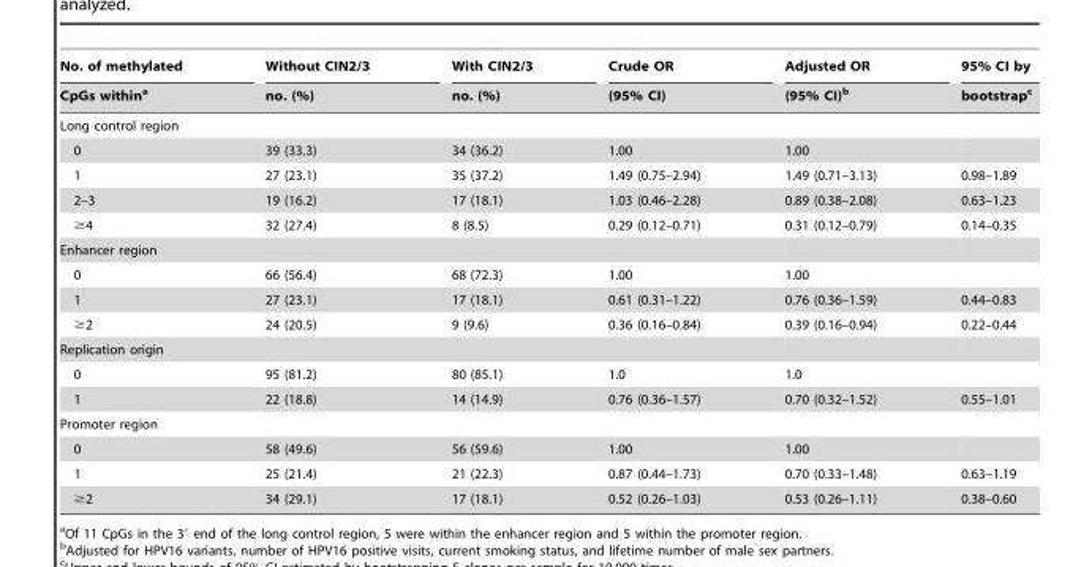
<table><thead><tr><td rowspan="2">No. of methylated CpGs within<sup>a</sup></td><td rowspan="2">Without CIN2/3 no. (%)</td><td rowspan="2">With CIN2/3 no. (%)</td><td rowspan="2">Crude OR (95% CI)</td><td rowspan="2">Adjusted OR (95% CI)<sup>b</sup></td><td rowspan="2">95% CI by bootstrap<sup>c</sup></td></tr><tr></tr></thead><tbody><tr><td colspan="6">Long control region</td></tr><tr><td>0</td><td>39 (33.3)</td><td>34 (36.2)</td><td>1.00</td><td>1.00</td><td></td></tr><tr><td>1</td><td>27 (23.1)</td><td>35 (37.2)</td><td>1.49 (0.75–2.94)</td><td>1.49 (0.71–3.13)</td><td>0.98–1.89</td></tr><tr><td>2–3</td><td>19 (16.2)</td><td>17 (18.1)</td><td>1.03 (0.46–2.28)</td><td>0.89 (0.38–2.08)</td><td>0.63–1.23</td></tr><tr><td>≥4</td><td>32 (27.4)</td><td>8 (8.5)</td><td>0.29 (0.12–0.71)</td><td>0.31 (0.12–0.79)</td><td>0.14–0.35</td></tr><tr><td colspan="6">Enhancer region</td></tr><tr><td>0</td><td>66 (56.4)</td><td>68 (72.3)</td><td>1.00</td><td>1.00</td><td></td></tr><tr><td>1</td><td>27 (23.1)</td><td>17 (18.1)</td><td>0.61 (0.31–1.22)</td><td>0.76 (0.36–1.59)</td><td>0.44–0.83</td></tr><tr><td>≥2</td><td>24 (20.5)</td><td>9 (9.6)</td><td>0.36 (0.16–0.84)</td><td>0.39 (0.16–0.94)</td><td>0.22–0.44</td></tr><tr><td colspan="6">Replication origin</td></tr><tr><td>0</td><td>95 (81.2)</td><td>80 (85.1)</td><td>1.0</td><td>1.0</td><td></td></tr><tr><td>1</td><td>22 (18.8)</td><td>14 (14.9)</td><td>0.76 (0.36–1.57)</td><td>0.70 (0.32–1.52)</td><td>0.55–1.01</td></tr><tr><td colspan="6">Promoter region</td></tr><tr><td>0</td><td>58 (49.6)</td><td>56 (59.6)</td><td>1.00</td><td>1.00</td><td></td></tr><tr><td>1</td><td>25 (21.4)</td><td>21 (22.3)</td><td>0.87 (0.44–1.73)</td><td>0.70 (0.33–1.48)</td><td>0.63–1.19</td></tr><tr><td>≥2</td><td>34 (29.1)</td><td>17 (18.1)</td><td>0.52 (0.26–1.03)</td><td>0.53 (0.26–1.11)</td><td>0.38–0.60</td></tr></tbody></table>